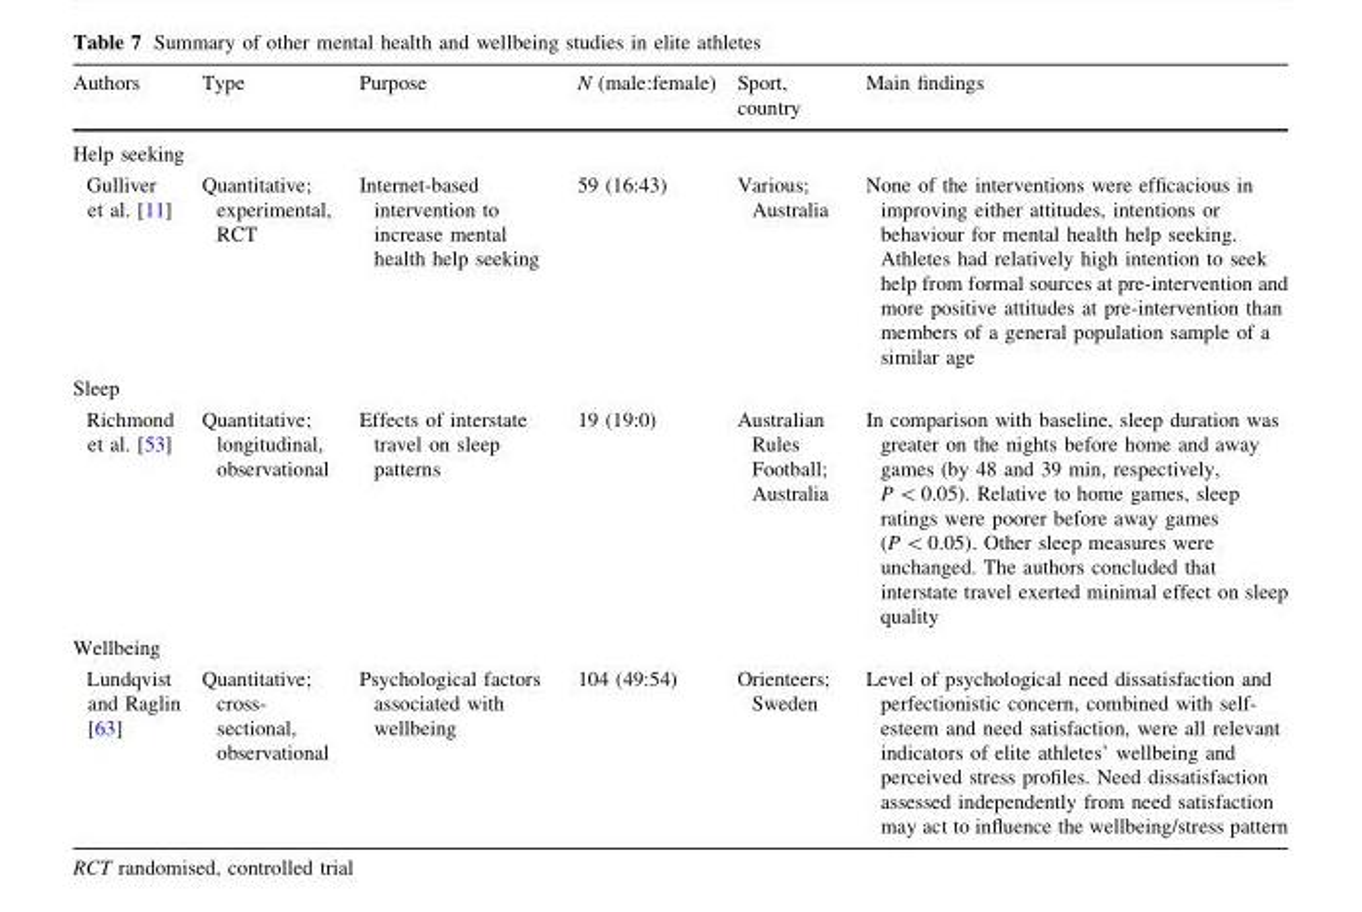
<table><thead><tr><td>Authors</td><td>Type</td><td>Purpose</td><td>N (male:female)</td><td>Sport, country</td><td>Main findings</td></tr></thead><tbody><tr><td colspan="6">Help seeking</td></tr><tr><td>Gulliver et al. [11]</td><td>Quantitative; experimental, RCT</td><td>Internet-based intervention to increase mental health help seeking</td><td>59 (16:43)</td><td>Various; Australia</td><td>None of the interventions were efficacious in improving either attitudes, intentions or behaviour for mental health help seeking. Athletes had relatively high intention to seek help from formal sources at pre-intervention and more positive attitudes at pre-intervention than members of a general population sample of a similar age</td></tr><tr><td colspan="6">Sleep</td></tr><tr><td>Richmond et al. [53]</td><td>Quantitative; longitudinal, observational</td><td>Effects of interstate travel on sleep patterns</td><td>19 (19:0)</td><td>Australian Rules Football; Australia</td><td>In comparison with baseline, sleep duration was greater on the nights before home and away games (by 48 and 39 min, respectively, P &lt; 0.05). Relative to home games, sleep ratings were poorer before away games (P &lt; 0.05). Other sleep measures were unchanged. The authors concluded that interstate travel exerted minimal effect on sleep quality</td></tr><tr><td colspan="6">Wellbeing</td></tr><tr><td>Lundqvist and Raglin [63]</td><td>Quantitative; cross- sectional, observational</td><td>Psychological factors associated with wellbeing</td><td>104 (49:54)</td><td>Orienteers; Sweden</td><td>Level of psychological need dissatisfaction and perfectionistic concern, combined with self- esteem and need satisfaction, were all relevant indicators of elite athletes’ wellbeing and perceived stress profiles. Need dissatisfaction assessed independently from need satisfaction may act to influence the wellbeing/stress pattern</td></tr></tbody></table>